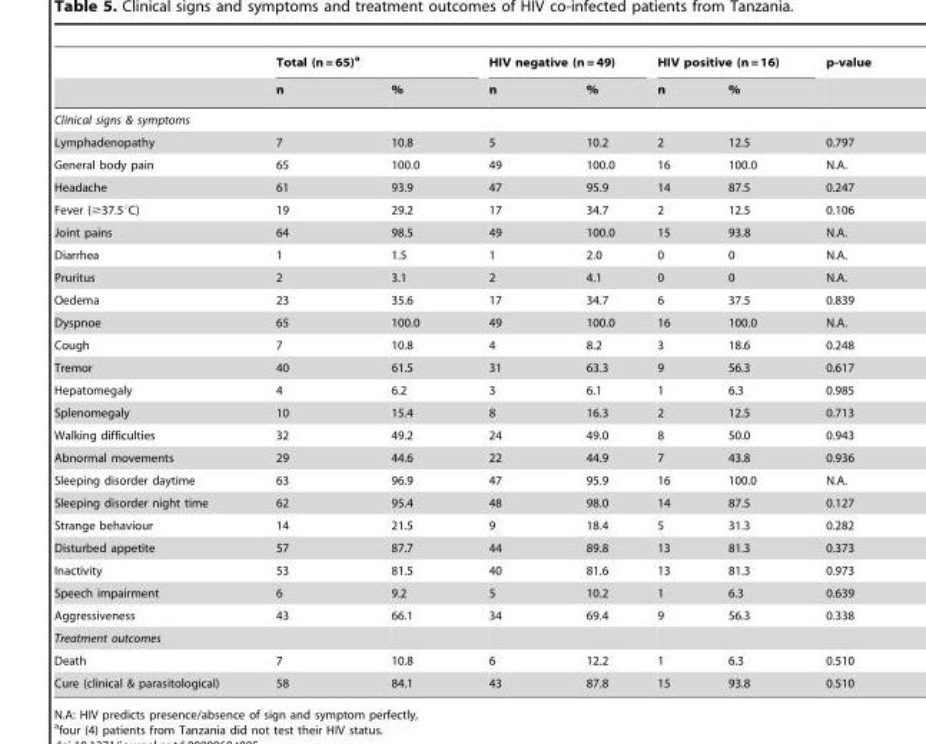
<table><thead><tr><td rowspan="2"></td><td colspan="2">Total (n = 65)<sup>a</sup></td><td colspan="2">HIV negative (n = 49)</td><td colspan="2">HIV positive (n = 16)</td><td rowspan="2">p-value</td></tr><tr><td>n</td><td>%</td><td>n</td><td>%</td><td>n</td><td>%</td></tr></thead><tbody><tr><td colspan="8">Clinical signs &amp; symptoms</td></tr><tr><td>Lymphadenopathy</td><td>7</td><td>10.8</td><td>5</td><td>10.2</td><td>2</td><td>12.5</td><td>0.797</td></tr><tr><td>General body pain</td><td>65</td><td>100.0</td><td>49</td><td>100.0</td><td>16</td><td>100.0</td><td>N.A.</td></tr><tr><td>Headache</td><td>61</td><td>93.9</td><td>47</td><td>95.9</td><td>14</td><td>87.5</td><td>0.247</td></tr><tr><td>Fever (≥37.5°C)</td><td>19</td><td>29.2</td><td>17</td><td>34.7</td><td>2</td><td>12.5</td><td>0.106</td></tr><tr><td>Joint pains</td><td>64</td><td>98.5</td><td>49</td><td>100.0</td><td>15</td><td>93.8</td><td>N.A.</td></tr><tr><td>Diarrhea</td><td>1</td><td>1.5</td><td>1</td><td>2.0</td><td>0</td><td>0</td><td>N.A.</td></tr><tr><td>Pruritus</td><td>2</td><td>3.1</td><td>2</td><td>4.1</td><td>0</td><td>0</td><td>N.A.</td></tr><tr><td>Oedema</td><td>23</td><td>35.6</td><td>17</td><td>34.7</td><td>6</td><td>37.5</td><td>0.839</td></tr><tr><td>Dyspnoe</td><td>65</td><td>100.0</td><td>49</td><td>100.0</td><td>16</td><td>100.0</td><td>N.A.</td></tr><tr><td>Cough</td><td>7</td><td>10.8</td><td>4</td><td>8.2</td><td>3</td><td>18.6</td><td>0.248</td></tr><tr><td>Tremor</td><td>40</td><td>61.5</td><td>31</td><td>63.3</td><td>9</td><td>56.3</td><td>0.617</td></tr><tr><td>Hepatomegaly</td><td>4</td><td>6.2</td><td>3</td><td>6.1</td><td>1</td><td>6.3</td><td>0.985</td></tr><tr><td>Splenomegaly</td><td>10</td><td>15.4</td><td>8</td><td>16.3</td><td>2</td><td>12.5</td><td>0.713</td></tr><tr><td>Walking difficulties</td><td>32</td><td>49.2</td><td>24</td><td>49.0</td><td>8</td><td>50.0</td><td>0.943</td></tr><tr><td>Abnormal movements</td><td>29</td><td>44.6</td><td>22</td><td>44.9</td><td>7</td><td>43.8</td><td>0.936</td></tr><tr><td>Sleeping disorder daytime</td><td>63</td><td>96.9</td><td>47</td><td>95.9</td><td>16</td><td>100.0</td><td>N.A.</td></tr><tr><td>Sleeping disorder night time</td><td>62</td><td>95.4</td><td>48</td><td>98.0</td><td>14</td><td>87.5</td><td>0.127</td></tr><tr><td>Strange behaviour</td><td>14</td><td>21.5</td><td>9</td><td>18.4</td><td>5</td><td>31.3</td><td>0.282</td></tr><tr><td>Disturbed appetite</td><td>57</td><td>87.7</td><td>44</td><td>89.8</td><td>13</td><td>81.3</td><td>0.373</td></tr><tr><td>Inactivity</td><td>53</td><td>81.5</td><td>40</td><td>81.6</td><td>13</td><td>81.3</td><td>0.973</td></tr><tr><td>Speech impairment</td><td>6</td><td>9.2</td><td>5</td><td>10.2</td><td>1</td><td>6.3</td><td>0.639</td></tr><tr><td>Aggressiveness</td><td>43</td><td>66.1</td><td>34</td><td>69.4</td><td>9</td><td>56.3</td><td>0.338</td></tr><tr><td colspan="8">Treatment outcomes</td></tr><tr><td>Death</td><td>7</td><td>10.8</td><td>6</td><td>12.2</td><td>1</td><td>6.3</td><td>0.510</td></tr><tr><td>Cure (clinical &amp; parasitological)</td><td>58</td><td>84.1</td><td>43</td><td>87.8</td><td>15</td><td>93.8</td><td>0.510</td></tr></tbody></table>